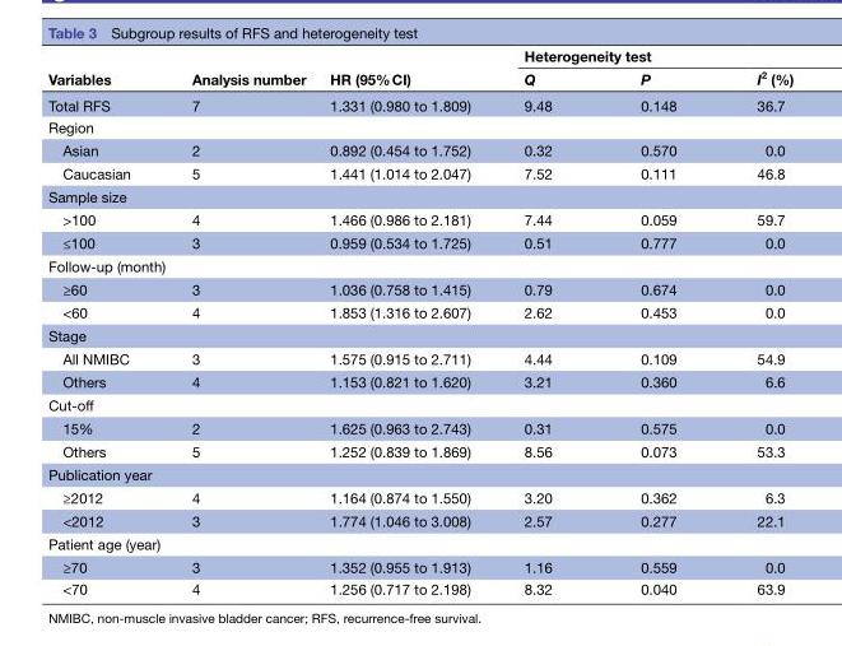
<table><thead><tr><td rowspan="2">Variables</td><td rowspan="2">Analysis number</td><td rowspan="2">HR (95% CI)</td><td colspan="3">Heterogeneity test</td></tr><tr><td>Q</td><td>P</td><td>I<sup>2</sup> (%)</td></tr></thead><tbody><tr><td>Total RFS</td><td>7</td><td>1.331 (0.980 to 1.809)</td><td>9.48</td><td>0.148</td><td>36.7</td></tr><tr><td colspan="6">Region</td></tr><tr><td>Asian</td><td>2</td><td>0.892 (0.454 to 1.752)</td><td>0.32</td><td>0.570</td><td>0.0</td></tr><tr><td>Caucasian</td><td>5</td><td>1.441 (1.014 to 2.047)</td><td>7.52</td><td>0.111</td><td>46.8</td></tr><tr><td colspan="6">Sample size</td></tr><tr><td>&gt;100</td><td>4</td><td>1.466 (0.986 to 2.181)</td><td>7.44</td><td>0.059</td><td>59.7</td></tr><tr><td>≤100</td><td>3</td><td>0.959 (0.534 to 1.725)</td><td>0.51</td><td>0.777</td><td>0.0</td></tr><tr><td colspan="6">Follow-up (month)</td></tr><tr><td>≥60</td><td>3</td><td>1.036 (0.758 to 1.415)</td><td>0.79</td><td>0.674</td><td>0.0</td></tr><tr><td>&lt;60</td><td>4</td><td>1.853 (1.316 to 2.607)</td><td>2.62</td><td>0.453</td><td>0.0</td></tr><tr><td colspan="6">Stage</td></tr><tr><td>All NMIBC</td><td>3</td><td>1.575 (0.915 to 2.711)</td><td>4.44</td><td>0.109</td><td>54.9</td></tr><tr><td>Others</td><td>4</td><td>1.153 (0.821 to 1.620)</td><td>3.21</td><td>0.360</td><td>6.6</td></tr><tr><td colspan="6">Cut-off</td></tr><tr><td>15%</td><td>2</td><td>1.625 (0.963 to 2.743)</td><td>0.31</td><td>0.575</td><td>0.0</td></tr><tr><td>Others</td><td>5</td><td>1.252 (0.839 to 1.869)</td><td>8.56</td><td>0.073</td><td>53.3</td></tr><tr><td colspan="6">Publication year</td></tr><tr><td>≥2012</td><td>4</td><td>1.164 (0.874 to 1.550)</td><td>3.20</td><td>0.362</td><td>6.3</td></tr><tr><td>&lt;2012</td><td>3</td><td>1.774 (1.046 to 3.008)</td><td>2.57</td><td>0.277</td><td>22.1</td></tr><tr><td colspan="6">Patient age (year)</td></tr><tr><td>≥70</td><td>3</td><td>1.352 (0.955 to 1.913)</td><td>1.16</td><td>0.559</td><td>0.0</td></tr><tr><td>&lt;70</td><td>4</td><td>1.256 (0.717 to 2.198)</td><td>8.32</td><td>0.040</td><td>63.9</td></tr></tbody></table>